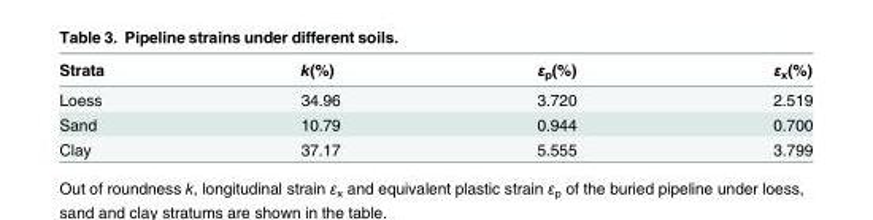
<table><thead><tr><td>Strata</td><td>k(%)</td><td>ε<sub>p</sub>(%)</td><td>ε<sub>x</sub>(%)</td></tr></thead><tbody><tr><td>Loess</td><td>34.96</td><td>3.720</td><td>2.519</td></tr><tr><td>Sand</td><td>10.79</td><td>0.944</td><td>0.700</td></tr><tr><td>Clay</td><td>37.17</td><td>5.555</td><td>3.799</td></tr></tbody></table>